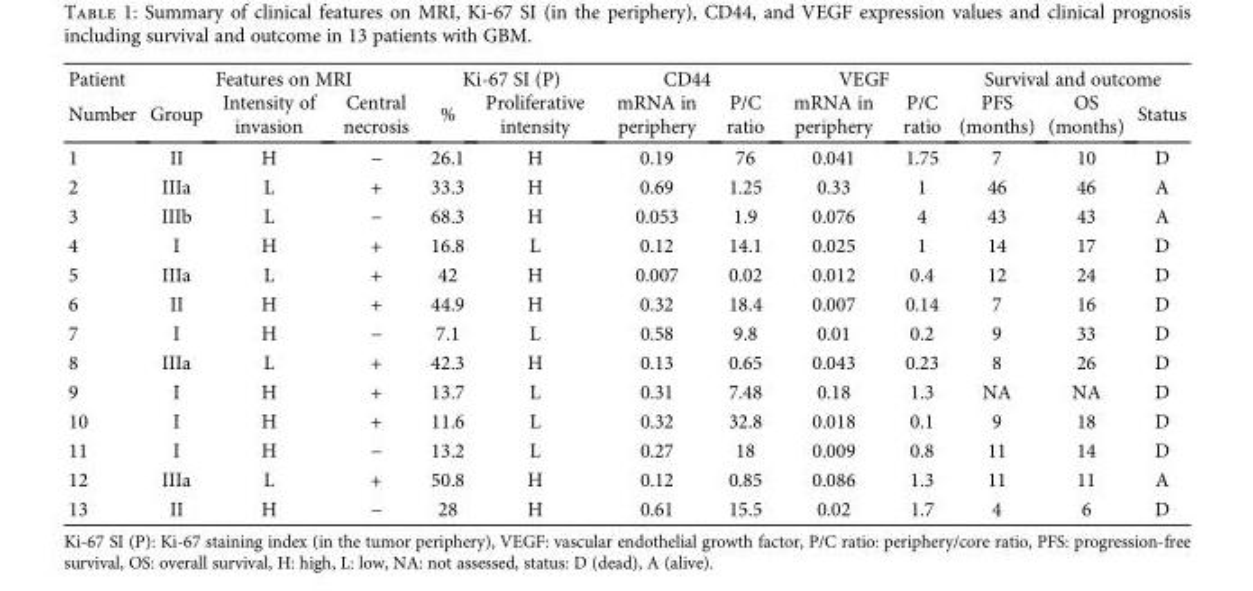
<table><thead><tr><td rowspan="2">Patient Number</td><td colspan="3">Features on MRI</td><td colspan="2">Ki-67 SI (P)</td><td colspan="2">CD44</td><td colspan="2">VEGF</td><td colspan="3">Survival and outcome</td></tr><tr><td>Group</td><td>Intensity of invasion</td><td>Central necrosis</td><td>%</td><td>Proliferative intensity</td><td>mRNA in periphery</td><td>P/C ratio</td><td>mRNA in periphery</td><td>P/C ratio</td><td>PFS (months)</td><td>OS (months)</td><td>Status</td></tr></thead><tbody><tr><td>1</td><td>II</td><td>H</td><td>−</td><td>26.1</td><td>H</td><td>0.19</td><td>76</td><td>0.041</td><td>1.75</td><td>7</td><td>10</td><td>D</td></tr><tr><td>2</td><td>IIIa</td><td>L</td><td>+</td><td>33.3</td><td>H</td><td>0.69</td><td>1.25</td><td>0.33</td><td>1</td><td>46</td><td>46</td><td>A</td></tr><tr><td>3</td><td>IIIb</td><td>L</td><td>−</td><td>68.3</td><td>H</td><td>0.053</td><td>1.9</td><td>0.076</td><td>4</td><td>43</td><td>43</td><td>A</td></tr><tr><td>4</td><td>I</td><td>H</td><td>+</td><td>16.8</td><td>L</td><td>0.12</td><td>14.1</td><td>0.025</td><td>1</td><td>14</td><td>17</td><td>D</td></tr><tr><td>5</td><td>IIIa</td><td>L</td><td>+</td><td>42</td><td>H</td><td>0.007</td><td>0.02</td><td>0.012</td><td>0.4</td><td>12</td><td>24</td><td>D</td></tr><tr><td>6</td><td>II</td><td>H</td><td>+</td><td>44.9</td><td>H</td><td>0.32</td><td>18.4</td><td>0.007</td><td>0.14</td><td>7</td><td>16</td><td>D</td></tr><tr><td>7</td><td>I</td><td>H</td><td>−</td><td>7.1</td><td>L</td><td>0.58</td><td>9.8</td><td>0.01</td><td>0.2</td><td>9</td><td>33</td><td>D</td></tr><tr><td>8</td><td>IIIa</td><td>L</td><td>+</td><td>42.3</td><td>H</td><td>0.13</td><td>0.65</td><td>0.043</td><td>0.23</td><td>8</td><td>26</td><td>D</td></tr><tr><td>9</td><td>I</td><td>H</td><td>+</td><td>13.7</td><td>L</td><td>0.31</td><td>7.48</td><td>0.18</td><td>1.3</td><td>NA</td><td>NA</td><td>D</td></tr><tr><td>10</td><td>I</td><td>H</td><td>+</td><td>11.6</td><td>L</td><td>0.32</td><td>32.8</td><td>0.018</td><td>0.1</td><td>9</td><td>18</td><td>D</td></tr><tr><td>11</td><td>I</td><td>H</td><td>−</td><td>13.2</td><td>L</td><td>0.27</td><td>18</td><td>0.009</td><td>0.8</td><td>11</td><td>14</td><td>D</td></tr><tr><td>12</td><td>IIIa</td><td>L</td><td>+</td><td>50.8</td><td>H</td><td>0.12</td><td>0.85</td><td>0.086</td><td>1.3</td><td>11</td><td>11</td><td>A</td></tr><tr><td>13</td><td>II</td><td>H</td><td>−</td><td>28</td><td>H</td><td>0.61</td><td>15.5</td><td>0.02</td><td>1.7</td><td>4</td><td>6</td><td>D</td></tr></tbody></table>